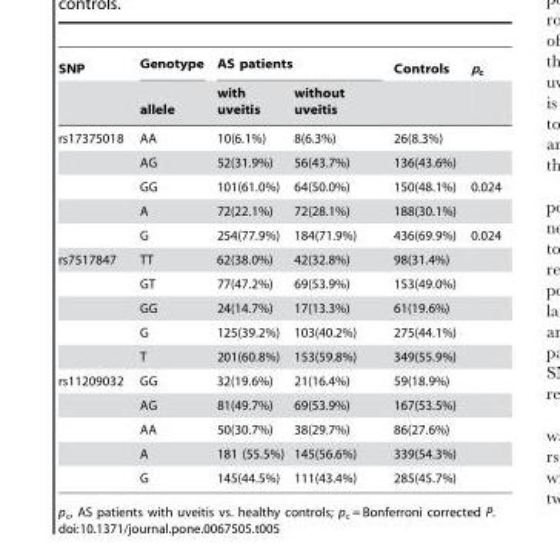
<table><thead><tr><td rowspan="2">SNP</td><td rowspan="2">Genotype allele</td><td colspan="2">AS patients</td><td rowspan="2">Controls</td><td rowspan="2">p<sub>c</sub></td></tr><tr><td>with uveitis</td><td>without uveitis</td></tr></thead><tbody><tr><td rowspan="5">rs17375018</td><td>AA</td><td>10(6.1%)</td><td>8(6.3%)</td><td>26(8.3%)</td><td></td></tr><tr><td>AG</td><td>52(31.9%)</td><td>56(43.7%)</td><td>136(43.6%)</td><td></td></tr><tr><td>GG</td><td>101(61.0%)</td><td>64(50.0%)</td><td>150(48.1%)</td><td>0.024</td></tr><tr><td>A</td><td>72(22.1%)</td><td>72(28.1%)</td><td>188(30.1%)</td><td></td></tr><tr><td>G</td><td>254(77.9%)</td><td>184(71.9%)</td><td>436(69.9%)</td><td>0.024</td></tr><tr><td rowspan="5">rs7517847</td><td>TT</td><td>62(38.0%)</td><td>42(32.8%)</td><td>98(31.4%)</td><td></td></tr><tr><td>GT</td><td>77(47.2%)</td><td>69(53.9%)</td><td>153(49.0%)</td><td></td></tr><tr><td>GG</td><td>24(14.7%)</td><td>17(13.3%)</td><td>61(19.6%)</td><td></td></tr><tr><td>G</td><td>125(39.2%)</td><td>103(40.2%)</td><td>275(44.1%)</td><td></td></tr><tr><td>T</td><td>201(60.8%)</td><td>153(59.8%)</td><td>349(55.9%)</td><td></td></tr><tr><td rowspan="5">rs11209032</td><td>GG</td><td>32(19.6%)</td><td>21(16.4%)</td><td>59(18.9%)</td><td></td></tr><tr><td>AG</td><td>81(49.7%)</td><td>69(53.9%)</td><td>167(53.5%)</td><td></td></tr><tr><td>AA</td><td>50(30.7%)</td><td>38(29.7%)</td><td>86(27.6%)</td><td></td></tr><tr><td>A</td><td>181 (55.5%)</td><td>145(56.6%)</td><td>339(54.3%)</td><td></td></tr><tr><td>G</td><td>145(44.5%)</td><td>111(43.4%)</td><td>285(45.7%)</td><td></td></tr></tbody></table>